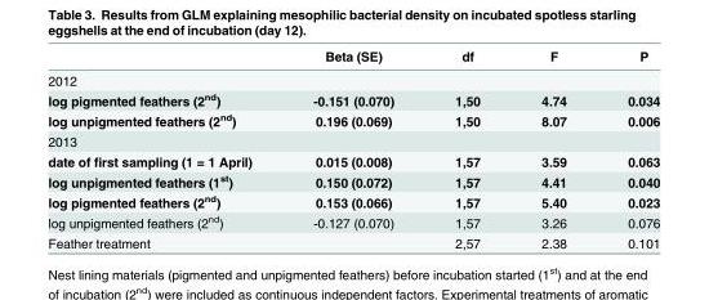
<table><thead><tr><td></td><td>Beta (SE)</td><td>df</td><td>F</td><td>P</td></tr></thead><tbody><tr><td colspan="5">2012</td></tr><tr><td>log pigmented feathers (2<sup>nd</sup>)</td><td>-0.151 (0.070)</td><td>1,50</td><td>4.74</td><td>0.034</td></tr><tr><td>log unpigmented feathers (2<sup>nd</sup>)</td><td>0.196 (0.069)</td><td>1,50</td><td>8.07</td><td>0.006</td></tr><tr><td colspan="5">2013</td></tr><tr><td>date of first sampling (1 = 1 April)</td><td>0.015 (0.008)</td><td>1,57</td><td>3.59</td><td>0.063</td></tr><tr><td>log unpigmented feathers (1<sup>st</sup>)</td><td>0.150 (0.072)</td><td>1,57</td><td>4.41</td><td>0.040</td></tr><tr><td>log pigmented feathers (2<sup>nd</sup>)</td><td>0.153 (0.066)</td><td>1,57</td><td>5.40</td><td>0.023</td></tr><tr><td>log unpigmented feathers (2<sup>nd</sup>)</td><td>-0.127 (0.070)</td><td>1,57</td><td>3.26</td><td>0.076</td></tr><tr><td>Feather treatment</td><td></td><td>2,57</td><td>2.38</td><td>0.101</td></tr></tbody></table>